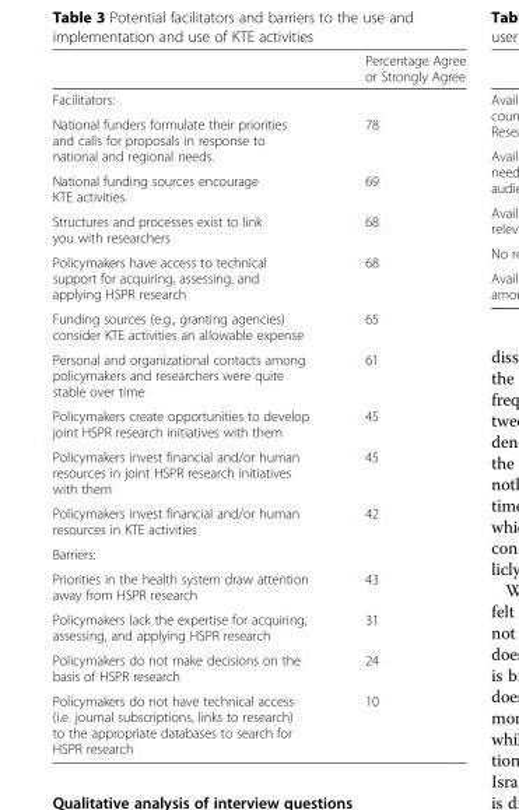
<table><thead><tr><td></td><td>Percentage Agree or Strongly Agree</td></tr></thead><tbody><tr><td colspan="2">Facilitators:</td></tr><tr><td>National funders formulate their priorities and calls for proposals in response to national and regional needs.</td><td>78</td></tr><tr><td>National funding sources encourage KTE activities.</td><td>69</td></tr><tr><td>Structures and processes exist to link you with researchers</td><td>68</td></tr><tr><td>Policymakers have access to technical support for acquiring, assessing, and applying HSPR research</td><td>68</td></tr><tr><td>Funding sources (e.g., granting agencies) consider KTE activities an allowable expense</td><td>65</td></tr><tr><td>Personal and organizational contacts among policymakers and researchers were quite stable over time</td><td>61</td></tr><tr><td>Policymakers create opportunities to develop joint HSPR research initiatives with them</td><td>45</td></tr><tr><td>Policymakers invest financial and/or human resources in joint HSPR research initiatives with them</td><td>45</td></tr><tr><td>Policymakers invest financial and/or human resources in KTE activities</td><td>42</td></tr><tr><td colspan="2">Barriers:</td></tr><tr><td>Priorities in the health system draw attention away from HSPR research</td><td>43</td></tr><tr><td>Policymakers lack the expertise for acquiring, assessing, and applying HSPR research</td><td>31</td></tr><tr><td>Policymakers do not make decisions on the basis of HSPR research</td><td>24</td></tr><tr><td>Policymakers do not have technical access (i.e. journal subscriptions, links to research) to the appropriate databases to search for HSPR research</td><td>10</td></tr></tbody></table>